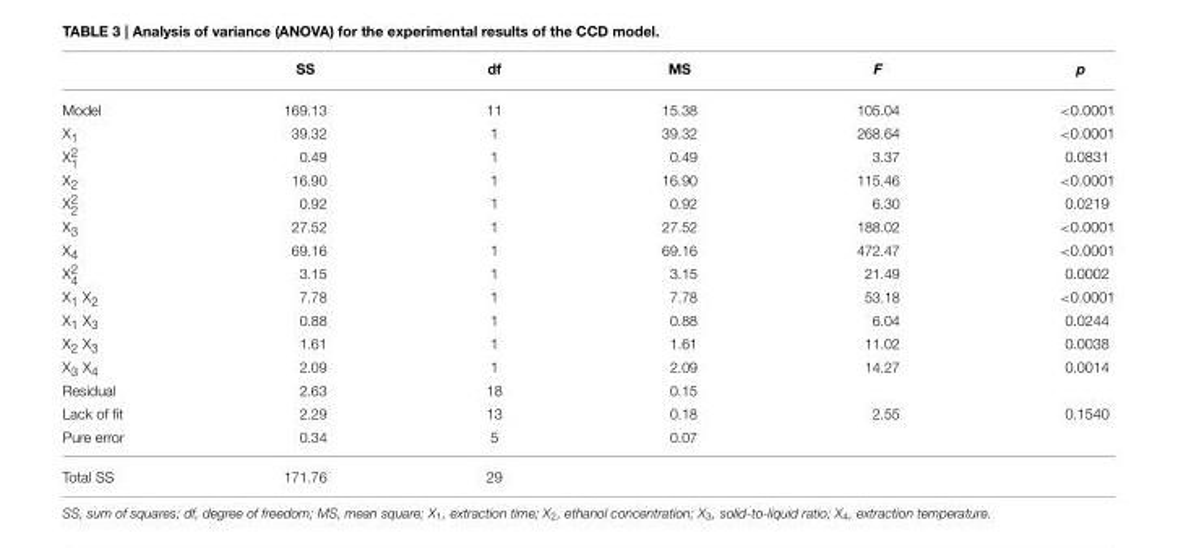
<table><thead><tr><td></td><td>SS</td><td>df</td><td>MS</td><td>F</td><td>p</td></tr></thead><tbody><tr><td>Model</td><td>169.13</td><td>11</td><td>15.38</td><td>105.04</td><td>&lt;0.0001</td></tr><tr><td>X<sub>1</sub></td><td>39.32</td><td>1</td><td>39.32</td><td>268.64</td><td>&lt;0.0001</td></tr><tr><td>X<sup>2</sup> <sub>1</sub></td><td>0.49</td><td>1</td><td>0.49</td><td>3.37</td><td>0.0831</td></tr><tr><td>X<sub>2</sub></td><td>16.90</td><td>1</td><td>16.90</td><td>115.46</td><td>&lt;0.0001</td></tr><tr><td>X<sup>2</sup> <sub>2</sub></td><td>0.92</td><td>1</td><td>0.92</td><td>6.30</td><td>0.0219</td></tr><tr><td>X<sub>3</sub></td><td>27.52</td><td>1</td><td>27.52</td><td>188.02</td><td>&lt;0.0001</td></tr><tr><td>X<sub>4</sub></td><td>69.16</td><td>1</td><td>69.16</td><td>472.47</td><td>&lt;0.0001</td></tr><tr><td>X<sup>2</sup> <sub>4</sub></td><td>3.15</td><td>1</td><td>3.15</td><td>21.49</td><td>0.0002</td></tr><tr><td>X<sub>1</sub> X<sub>2</sub></td><td>7.78</td><td>1</td><td>7.78</td><td>53.18</td><td>&lt;0.0001</td></tr><tr><td>X<sub>1</sub> X<sub>3</sub></td><td>0.88</td><td>1</td><td>0.88</td><td>6.04</td><td>0.0244</td></tr><tr><td>X<sub>2</sub> X<sub>3</sub></td><td>1.61</td><td>1</td><td>1.61</td><td>11.02</td><td>0.0038</td></tr><tr><td>X<sub>3</sub> X<sub>4</sub></td><td>2.09</td><td>1</td><td>2.09</td><td>14.27</td><td>0.0014</td></tr><tr><td>Residual</td><td>2.63</td><td>18</td><td>0.15</td><td></td><td></td></tr><tr><td>Lack of fit</td><td>2.29</td><td>13</td><td>0.18</td><td>2.55</td><td>0.1540</td></tr><tr><td>Pure error</td><td>0.34</td><td>5</td><td>0.07</td><td></td><td></td></tr><tr><td>Total SS</td><td>171.76</td><td>29</td><td></td><td></td><td></td></tr></tbody></table>